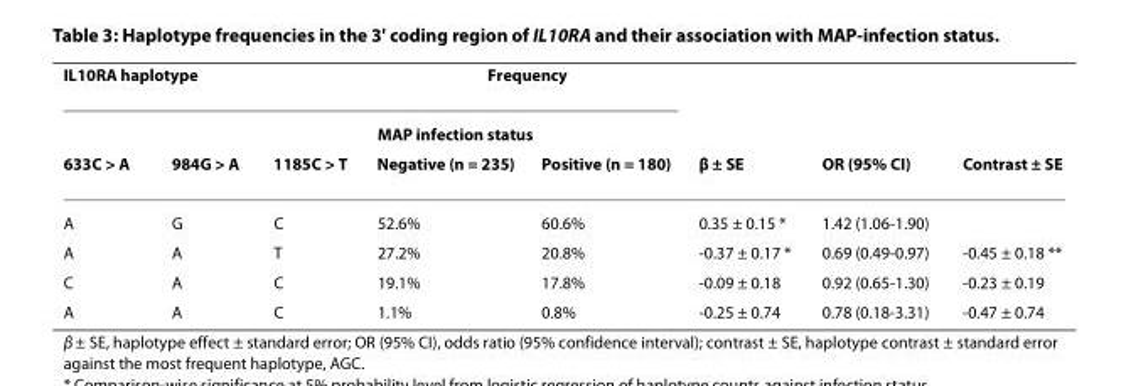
<table><thead><tr><td colspan="3">IL10RA haplotype</td><td rowspan="2" colspan="2">Frequency MAP infection status</td><td rowspan="3">β ± SE</td><td rowspan="3">OR (95% CI)</td><td rowspan="3">Contrast ± SE</td></tr><tr><td rowspan="2">633C &gt; A</td><td rowspan="2">984G &gt; A</td><td rowspan="2">1185C &gt; T</td></tr><tr><td>Negative (n = 235)</td><td>Positive (n = 180)</td></tr></thead><tbody><tr><td>A</td><td>G</td><td>C</td><td>52.6%</td><td>60.6%</td><td>0.35 ± 0.15 *</td><td>1.42 (1.06-1.90)</td><td></td></tr><tr><td>A</td><td>A</td><td>T</td><td>27.2%</td><td>20.8%</td><td>-0.37 ± 0.17 *</td><td>0.69 (0.49-0.97)</td><td>-0.45 ± 0.18 **</td></tr><tr><td>C</td><td>A</td><td>C</td><td>19.1%</td><td>17.8%</td><td>-0.09 ± 0.18</td><td>0.92 (0.65-1.30)</td><td>-0.23 ± 0.19</td></tr><tr><td>A</td><td>A</td><td>C</td><td>1.1%</td><td>0.8%</td><td>-0.25 ± 0.74</td><td>0.78 (0.18-3.31)</td><td>-0.47 ± 0.74</td></tr></tbody></table>